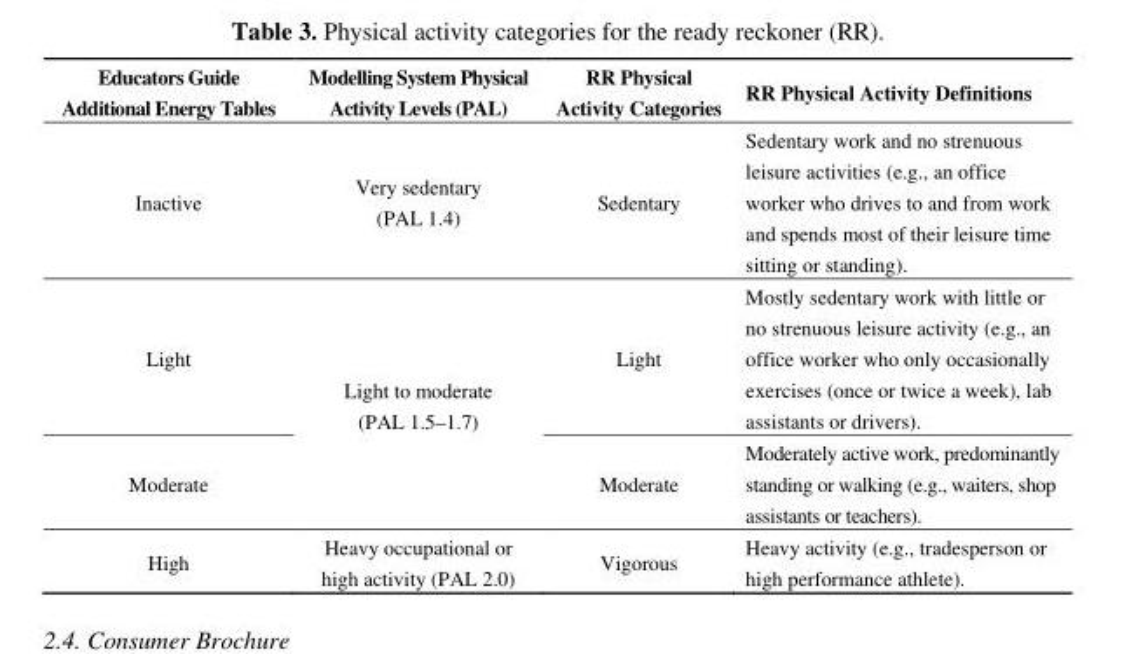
<table><thead><tr><td>Educators Guide Additional Energy Tables</td><td>Modelling System Physical Activity Levels (PAL)</td><td>RR Physical Activity Categories</td><td>RR Physical Activity Definitions</td></tr></thead><tbody><tr><td>Inactive</td><td>Very sedentary (PAL 1.4)</td><td>Sedentary</td><td>Sedentary work and no strenuous leisure activities (e.g., an office worker who drives to and from work and spends most of their leisure time sitting or standing).</td></tr><tr><td>Light</td><td rowspan="2">Light to moderate (PAL 1.5–1.7)</td><td>Light</td><td>Mostly sedentary work with little or no strenuous leisure activity (e.g., an office worker who only occasionally exercises (once or twice a week), lab assistants or drivers).</td></tr><tr><td>Moderate</td><td>Moderate</td><td>Moderately active work, predominantly standing or walking (e.g., waiters, shop assistants or teachers).</td></tr><tr><td>High</td><td>Heavy occupational or high activity (PAL 2.0)</td><td>Vigorous</td><td>Heavy activity (e.g., tradesperson or high performance athlete).</td></tr></tbody></table>